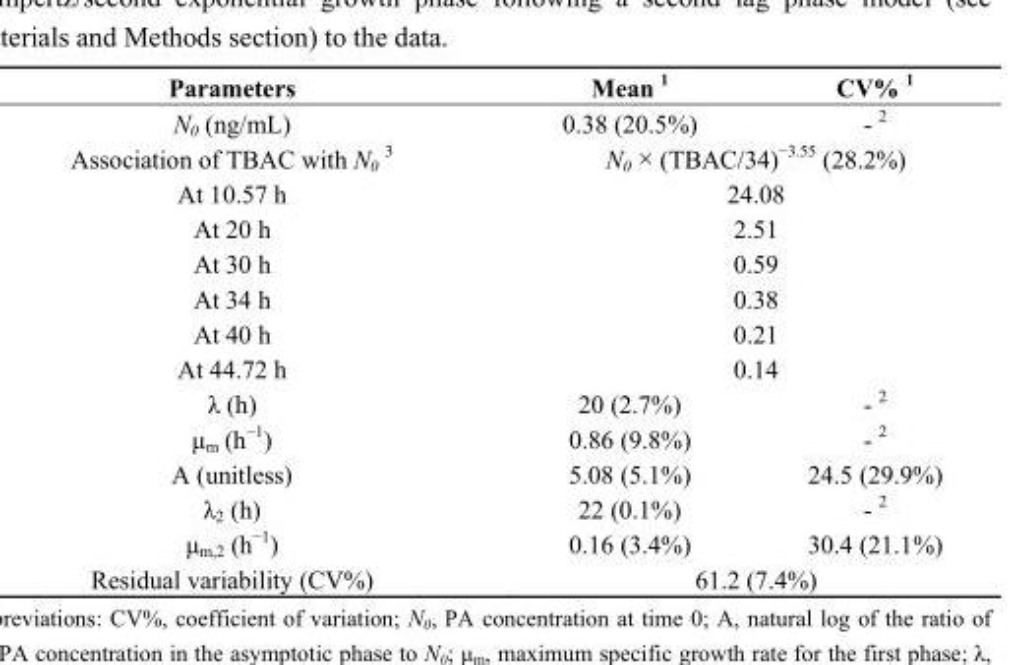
<table><thead><tr><td>Parameters</td><td>Mean <sup>1</sup></td><td>CV% <sup>1</sup></td></tr></thead><tbody><tr><td>N<sub>0</sub> (ng/mL)</td><td>0.38 (20.5%)</td><td>- <sup>2</sup></td></tr><tr><td>Association of TBAC with N<sub>0</sub> <sup>3</sup></td><td colspan="2">N<sub>0</sub> × (TBAC/34)<sup>−3.55</sup> (28.2%)</td></tr><tr><td>At 10.57 h</td><td colspan="2">24.08</td></tr><tr><td>At 20 h</td><td colspan="2">2.51</td></tr><tr><td>At 30 h</td><td colspan="2">0.59</td></tr><tr><td>At 34 h</td><td colspan="2">0.38</td></tr><tr><td>At 40 h</td><td colspan="2">0.21</td></tr><tr><td>At 44.72 h</td><td colspan="2">0.14</td></tr><tr><td>λ (h)</td><td>20 (2.7%)</td><td>- <sup>2</sup></td></tr><tr><td>μ<sub>m</sub> (h<sup>−1</sup>)</td><td>0.86 (9.8%)</td><td>- <sup>2</sup></td></tr><tr><td>A (unitless)</td><td>5.08 (5.1%)</td><td>24.5 (29.9%)</td></tr><tr><td>λ<sub>2</sub> (h)</td><td>22 (0.1%)</td><td>- <sup>2</sup></td></tr><tr><td>μ<sub>m,2</sub> (h<sup>−1</sup>)</td><td>0.16 (3.4%)</td><td>30.4 (21.1%)</td></tr><tr><td>Residual variability (CV%)</td><td colspan="2">61.2 (7.4%)</td></tr></tbody></table>